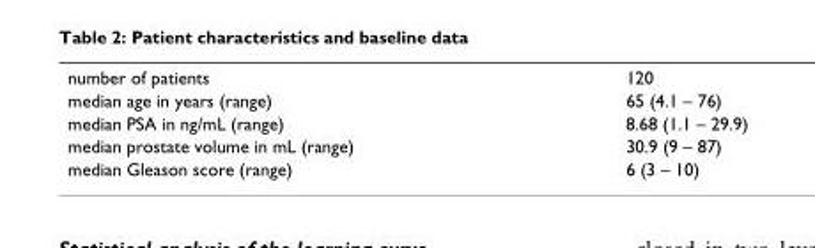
<table><tbody><tr><td>number of patients</td><td>120</td></tr><tr><td>median age in years (range)</td><td>65 (4.1 – 76)</td></tr><tr><td>median PSA in ng/mL (range)</td><td>8.68 (1.1 – 29.9)</td></tr><tr><td>median prostate volume in mL (range)</td><td>30.9 (9 – 87)</td></tr><tr><td>median Gleason score (range)</td><td>6 (3 – 10)</td></tr></tbody></table>